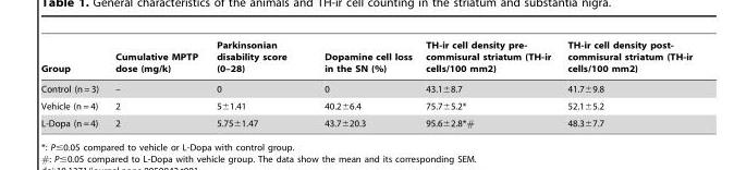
<table><thead><tr><td>Group</td><td>Cumulative MPTP dose (mg/k)</td><td>Parkinsonian disability score (0–28)</td><td>Dopamine cell loss in the SN (%)</td><td>TH-ir cell density pre- commisural striatum (TH-ir cells/100 mm2)</td><td>TH-ir cell density post- commisural striatum (TH-ir cells/100 mm2)</td></tr></thead><tbody><tr><td>Control (n = 3)</td><td>–</td><td>0</td><td>0</td><td>43.1±8.7</td><td>41.7±9.8</td></tr><tr><td>Vehicle (n = 4)</td><td>2</td><td>5±1.41</td><td>40.2±6.4</td><td>75.7±5.2*</td><td>52.1±5.2</td></tr><tr><td>L-Dopa (n = 4)</td><td>2</td><td>5.75±1.47</td><td>43.7±20.3</td><td>95.6±2.8*#</td><td>48.3±7.7</td></tr></tbody></table>